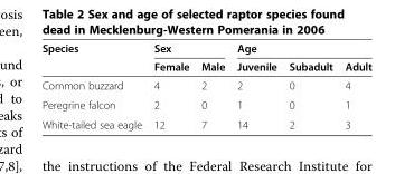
<table><thead><tr><td rowspan="2">Species</td><td colspan="2">Sex</td><td colspan="3">Age</td></tr><tr><td>Female</td><td>Male</td><td>Juvenile</td><td>Subadult</td><td>Adult</td></tr></thead><tbody><tr><td>Common buzzard</td><td>4</td><td>2</td><td>2</td><td>0</td><td>4</td></tr><tr><td>Peregrine falcon</td><td>2</td><td>0</td><td>1</td><td>0</td><td>1</td></tr><tr><td>White-tailed sea eagle</td><td>12</td><td>7</td><td>14</td><td>2</td><td>3</td></tr></tbody></table>